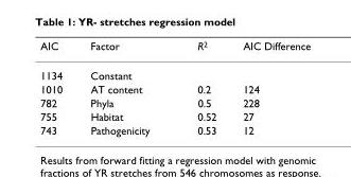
<table><thead><tr><td>AIC</td><td>Factor</td><td>R<sup>2</sup></td><td>AIC Difference</td></tr></thead><tbody><tr><td>1134</td><td>Constant</td><td></td><td></td></tr><tr><td>1010</td><td>AT content</td><td>0.2</td><td>124</td></tr><tr><td>782</td><td>Phyla</td><td>0.5</td><td>228</td></tr><tr><td>755</td><td>Habitat</td><td>0.52</td><td>27</td></tr><tr><td>743</td><td>Pathogenicity</td><td>0.53</td><td>12</td></tr></tbody></table>